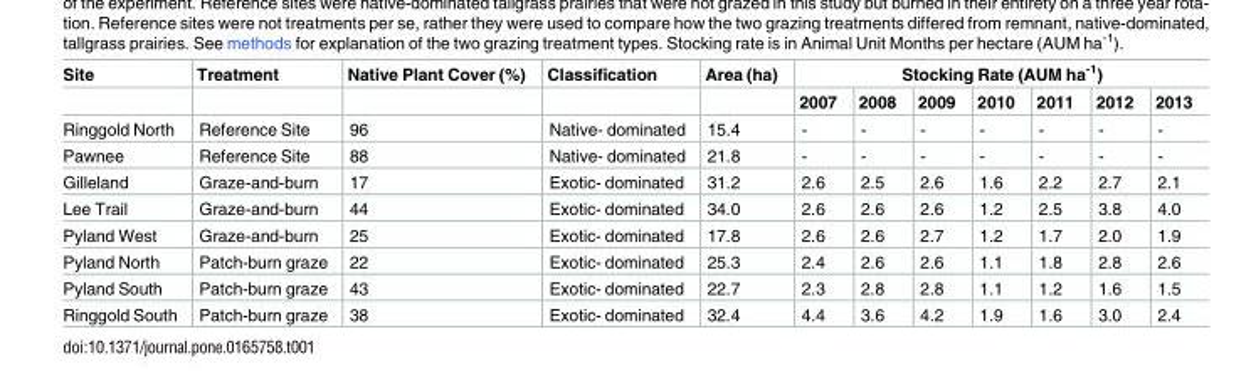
<table><thead><tr><td rowspan="2">Site</td><td rowspan="2">Treatment</td><td rowspan="2">Native Plant Cover (%)</td><td rowspan="2">Classification</td><td rowspan="2">Area (ha)</td><td colspan="7">Stocking Rate (AUM ha<sup>-1</sup>)</td></tr><tr><td>2007</td><td>2008</td><td>2009</td><td>2010</td><td>2011</td><td>2012</td><td>2013</td></tr></thead><tbody><tr><td>Ringgold North</td><td>Reference Site</td><td>96</td><td>Native- dominated</td><td>15.4</td><td>-</td><td>-</td><td>-</td><td>-</td><td>-</td><td>-</td><td>-</td></tr><tr><td>Pawnee</td><td>Reference Site</td><td>88</td><td>Native- dominated</td><td>21.8</td><td>-</td><td>-</td><td>-</td><td>-</td><td>-</td><td>-</td><td>-</td></tr><tr><td>Gilleland</td><td>Graze-and-burn</td><td>17</td><td>Exotic- dominated</td><td>31.2</td><td>2.6</td><td>2.5</td><td>2.6</td><td>1.6</td><td>2.2</td><td>2.7</td><td>2.1</td></tr><tr><td>Lee Trail</td><td>Graze-and-burn</td><td>44</td><td>Exotic- dominated</td><td>34.0</td><td>2.6</td><td>2.6</td><td>2.6</td><td>1.2</td><td>2.5</td><td>3.8</td><td>4.0</td></tr><tr><td>Pyland West</td><td>Graze-and-burn</td><td>25</td><td>Exotic- dominated</td><td>17.8</td><td>2.6</td><td>2.6</td><td>2.7</td><td>1.2</td><td>1.7</td><td>2.0</td><td>1.9</td></tr><tr><td>Pyland North</td><td>Patch-burn graze</td><td>22</td><td>Exotic- dominated</td><td>25.3</td><td>2.4</td><td>2.6</td><td>2.6</td><td>1.1</td><td>1.8</td><td>2.8</td><td>2.6</td></tr><tr><td>Pyland South</td><td>Patch-burn graze</td><td>43</td><td>Exotic- dominated</td><td>22.7</td><td>2.3</td><td>2.8</td><td>2.8</td><td>1.1</td><td>1.2</td><td>1.6</td><td>1.5</td></tr><tr><td>Ringgold South</td><td>Patch-burn graze</td><td>38</td><td>Exotic- dominated</td><td>32.4</td><td>4.4</td><td>3.6</td><td>4.2</td><td>1.9</td><td>1.6</td><td>3.0</td><td>2.4</td></tr></tbody></table>